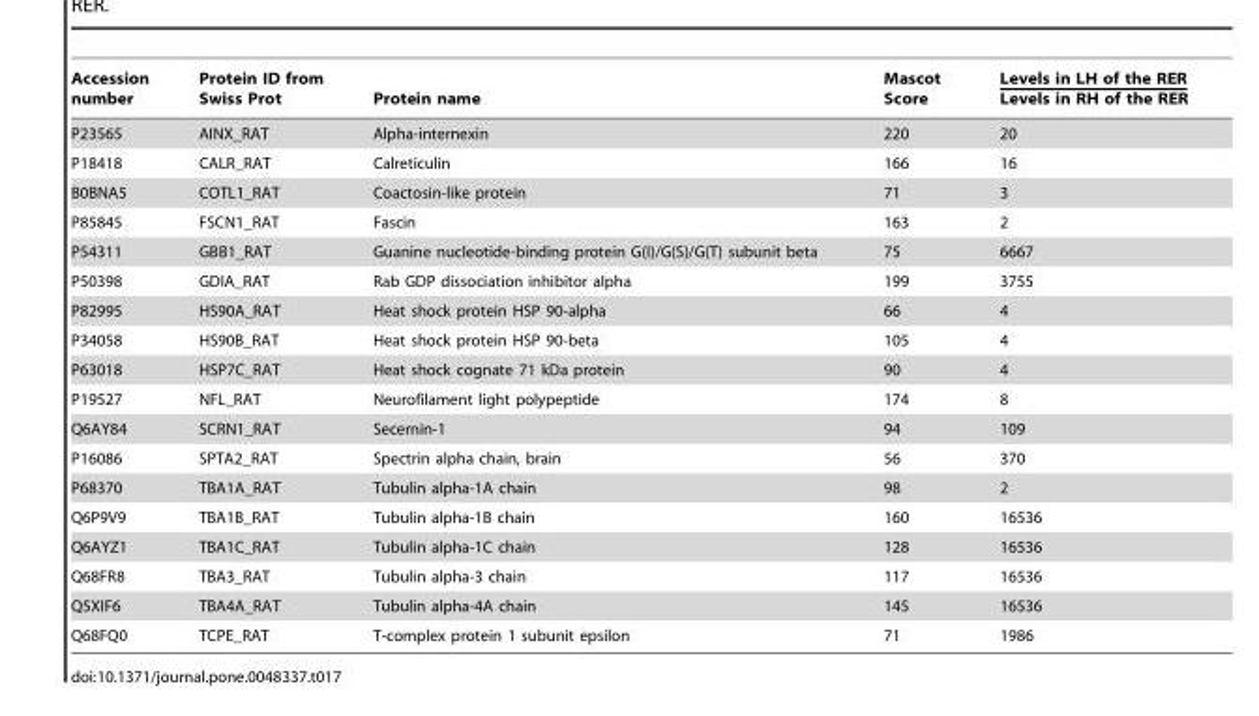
<table><thead><tr><td>Accession number</td><td>Protein ID from Swiss Prot</td><td>Protein name</td><td>Mascot Score</td><td>Levels in LH of the RER Levels in RH of the RER</td></tr></thead><tbody><tr><td>P23565</td><td>AINX_RAT</td><td>Alpha-internexin</td><td>220</td><td>20</td></tr><tr><td>P18418</td><td>CALR_RAT</td><td>Calreticulin</td><td>166</td><td>16</td></tr><tr><td>B0BNA5</td><td>COTL1_RAT</td><td>Coactosin-like protein</td><td>71</td><td>3</td></tr><tr><td>P85845</td><td>FSCN1_RAT</td><td>Fascin</td><td>163</td><td>2</td></tr><tr><td>P54311</td><td>GBB1_RAT</td><td>Guanine nucleotide-binding protein G(I)/G(S)/G(T) subunit beta</td><td>75</td><td>6667</td></tr><tr><td>P50398</td><td>GDIA_RAT</td><td>Rab GDP dissociation inhibitor alpha</td><td>199</td><td>3755</td></tr><tr><td>P82995</td><td>HS90A_RAT</td><td>Heat shock protein HSP 90-alpha</td><td>66</td><td>4</td></tr><tr><td>P34058</td><td>HS90B_RAT</td><td>Heat shock protein HSP 90-beta</td><td>105</td><td>4</td></tr><tr><td>P63018</td><td>HSP7C_RAT</td><td>Heat shock cognate 71 kDa protein</td><td>90</td><td>4</td></tr><tr><td>P19527</td><td>NFL_RAT</td><td>Neurofilament light polypeptide</td><td>174</td><td>8</td></tr><tr><td>Q6AY84</td><td>SCRN1_RAT</td><td>Secernin-1</td><td>94</td><td>109</td></tr><tr><td>P16086</td><td>SPTA2_RAT</td><td>Spectrin alpha chain, brain</td><td>56</td><td>370</td></tr><tr><td>P68370</td><td>TBA1A_RAT</td><td>Tubulin alpha-1A chain</td><td>98</td><td>2</td></tr><tr><td>Q6P9V9</td><td>TBA1B_RAT</td><td>Tubulin alpha-1B chain</td><td>160</td><td>16536</td></tr><tr><td>Q6AYZ1</td><td>TBA1C_RAT</td><td>Tubulin alpha-1C chain</td><td>128</td><td>16536</td></tr><tr><td>Q68FR8</td><td>TBA3_RAT</td><td>Tubulin alpha-3 chain</td><td>117</td><td>16536</td></tr><tr><td>Q5XIF6</td><td>TBA4A_RAT</td><td>Tubulin alpha-4A chain</td><td>145</td><td>16536</td></tr><tr><td>Q68FQ0</td><td>TCPE_RAT</td><td>T-complex protein 1 subunit epsilon</td><td>71</td><td>1986</td></tr></tbody></table>